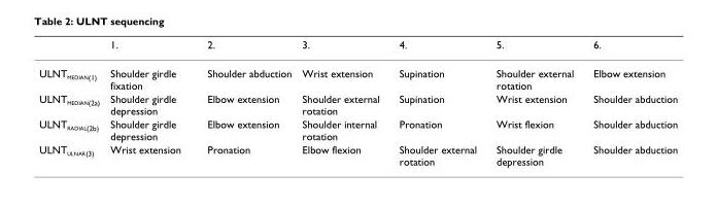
<table><thead><tr><td></td><td>1.</td><td>2.</td><td>3.</td><td>4.</td><td>5.</td><td>6.</td></tr></thead><tbody><tr><td>ULNT<sub>MEDIAN(1)</sub></td><td>Shoulder girdle fixation</td><td>Shoulder abduction</td><td>Wrist extension</td><td>Supination</td><td>Shoulder external rotation</td><td>Elbow extension</td></tr><tr><td>ULNT<sub>MEDIAN(2a)</sub></td><td>Shoulder girdle depression</td><td>Elbow extension</td><td>Shoulder external rotation</td><td>Supination</td><td>Wrist extension</td><td>Shoulder abduction</td></tr><tr><td>ULNT<sub>RADIAL(2b)</sub></td><td>Shoulder girdle depression</td><td>Elbow extension</td><td>Shoulder internal rotation</td><td>Pronation</td><td>Wrist flexion</td><td>Shoulder abduction</td></tr><tr><td>ULNT<sub>ULNAR(3)</sub></td><td>Wrist extension</td><td>Pronation</td><td>Elbow flexion</td><td>Shoulder external rotation</td><td>Shoulder girdle depression</td><td>Shoulder abduction</td></tr></tbody></table>